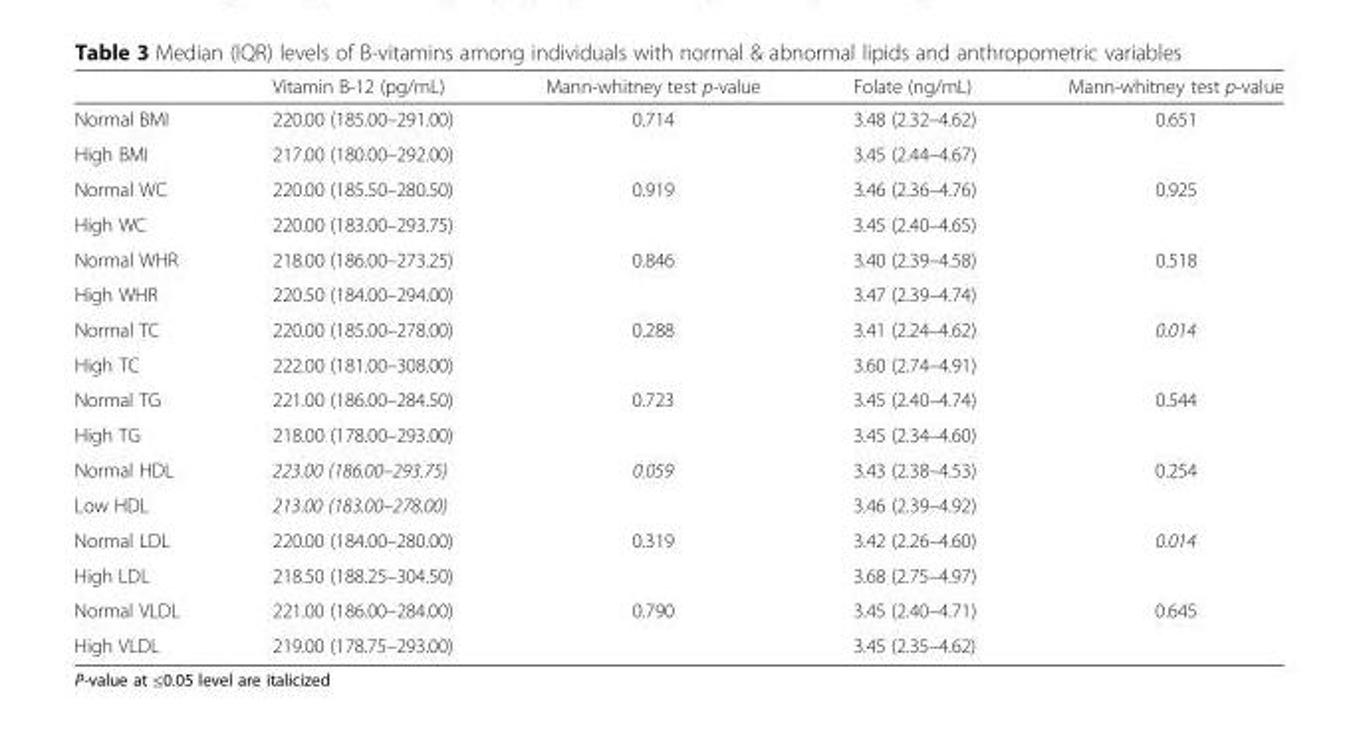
<table><thead><tr><td></td><td>Vitamin B-12 (pg/mL)</td><td>Mann-whitney test p-value</td><td>Folate (ng/mL)</td><td>Mann-whitney test p-value</td></tr></thead><tbody><tr><td>Normal BMI</td><td>220.00 (185.00–291.00)</td><td rowspan="2">0.714</td><td>3.48 (2.32–4.62)</td><td rowspan="2">0.651</td></tr><tr><td>High BMI</td><td>217.00 (180.00–292.00)</td><td>3.45 (2.44–4.67)</td></tr><tr><td>Normal WC</td><td>220.00 (185.50–280.50)</td><td rowspan="2">0.919</td><td>3.46 (2.36–4.76)</td><td rowspan="2">0.925</td></tr><tr><td>High WC</td><td>220.00 (183.00–293.75)</td><td>3.45 (2.40–4.65)</td></tr><tr><td>Normal WHR</td><td>218.00 (186.00–273.25)</td><td rowspan="2">0.846</td><td>3.40 (2.39–4.58)</td><td rowspan="2">0.518</td></tr><tr><td>High WHR</td><td>220.50 (184.00–294.00)</td><td>3.47 (2.39–4.74)</td></tr><tr><td>Normal TC</td><td>220.00 (185.00–278.00)</td><td rowspan="2">0.288</td><td>3.41 (2.24–4.62)</td><td rowspan="2">0.014</td></tr><tr><td>High TC</td><td>222.00 (181.00–308.00)</td><td>3.60 (2.74–4.91)</td></tr><tr><td>Normal TG</td><td>221.00 (186.00–284.50)</td><td rowspan="2">0.723</td><td>3.45 (2.40–4.74)</td><td rowspan="2">0.544</td></tr><tr><td>High TG</td><td>218.00 (178.00–293.00)</td><td>3.45 (2.34–4.60)</td></tr><tr><td>Normal HDL</td><td>223.00 (186.00–293.75)</td><td rowspan="2">0.059</td><td>3.43 (2.38–4.53)</td><td rowspan="2">0.254</td></tr><tr><td>Low HDL</td><td>213.00 (183.00–278.00)</td><td>3.46 (2.39–4.92)</td></tr><tr><td>Normal LDL</td><td>220.00 (184.00–280.00)</td><td rowspan="2">0.319</td><td>3.42 (2.26–4.60)</td><td rowspan="2">0.014</td></tr><tr><td>High LDL</td><td>218.50 (188.25–304.50)</td><td>3.68 (2.75–4.97)</td></tr><tr><td>Normal VLDL</td><td>221.00 (186.00–284.00)</td><td rowspan="2">0.790</td><td>3.45 (2.40–4.71)</td><td rowspan="2">0.645</td></tr><tr><td>High VLDL</td><td>219.00 (178.75–293.00)</td><td>3.45 (2.35–4.62)</td></tr></tbody></table>